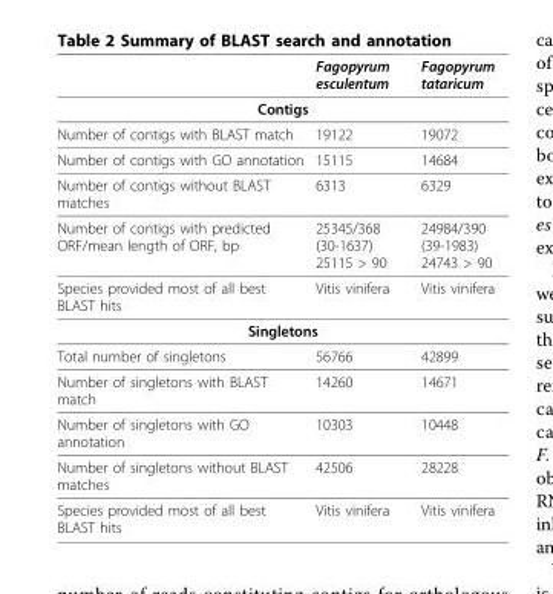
<table><thead><tr><td></td><td>Fagopyrum esculentum</td><td>Fagopyrum tataricum</td></tr></thead><tbody><tr><td colspan="3">Contigs</td></tr><tr><td>Number of contigs with BLAST match</td><td>19122</td><td>19072</td></tr><tr><td>Number of contigs with GO annotation</td><td>15115</td><td>14684</td></tr><tr><td>Number of contigs without BLAST matches</td><td>6313</td><td>6329</td></tr><tr><td>Number of contigs with predicted ORF/mean length of ORF, bp</td><td>25345/368 (30-1637) 25115 &gt; 90</td><td>24984/390 (39-1983) 24743 &gt; 90</td></tr><tr><td>Species provided most of all best BLAST hits</td><td>Vitis vinifera</td><td>Vitis vinifera</td></tr><tr><td colspan="3">Singletons</td></tr><tr><td>Total number of singletons</td><td>56766</td><td>42899</td></tr><tr><td>Number of singletons with BLAST match</td><td>14260</td><td>14671</td></tr><tr><td>Number of singletons with GO annotation</td><td>10303</td><td>10448</td></tr><tr><td>Number of singletons without BLAST matches</td><td>42506</td><td>28228</td></tr><tr><td>Species provided most of all best BLAST hits</td><td>Vitis vinifera</td><td>Vitis vinifera</td></tr></tbody></table>